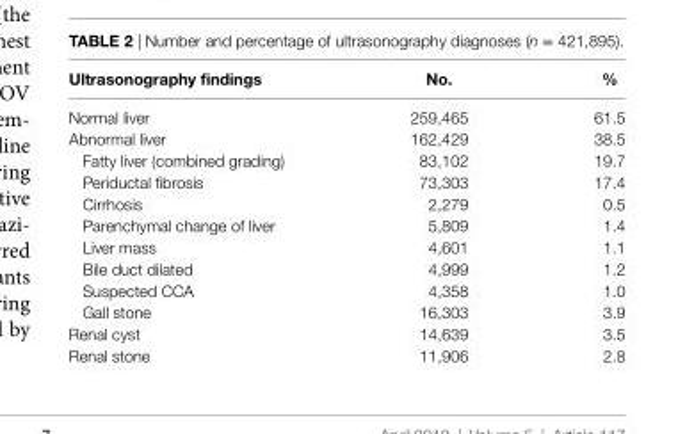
<table><thead><tr><td>Ultrasonography findings</td><td>No.</td><td>%</td></tr></thead><tbody><tr><td>Normal liver</td><td>259,465</td><td>61.5</td></tr><tr><td>Abnormal liver</td><td>162,429</td><td>38.5</td></tr><tr><td>Fatty liver (combined grading)</td><td>83,102</td><td>19.7</td></tr><tr><td>Periductal fibrosis</td><td>73,303</td><td>17.4</td></tr><tr><td>Cirrhosis</td><td>2,279</td><td>0.5</td></tr><tr><td>Parenchymal change of liver</td><td>5,809</td><td>1.4</td></tr><tr><td>Liver mass</td><td>4,601</td><td>1.1</td></tr><tr><td>Bile duct dilated</td><td>4,999</td><td>1.2</td></tr><tr><td>Suspected CCA</td><td>4,358</td><td>1.0</td></tr><tr><td>Gall stone</td><td>16,303</td><td>3.9</td></tr><tr><td>Renal cyst</td><td>14,639</td><td>3.5</td></tr><tr><td>Renal stone</td><td>11,906</td><td>2.8</td></tr></tbody></table>